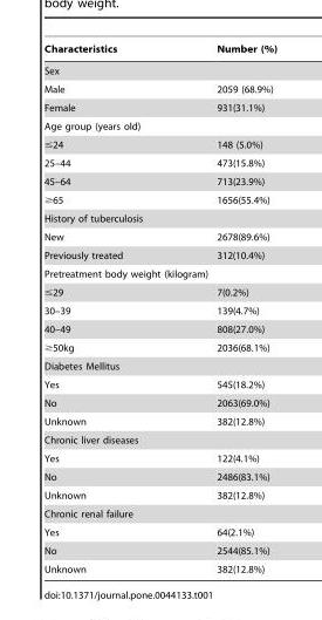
<table><thead><tr><td>Characteristics</td><td>Number (%)</td></tr></thead><tbody><tr><td colspan="2">Sex</td></tr><tr><td>Male</td><td>2059 (68.9%)</td></tr><tr><td>Female</td><td>931(31.1%)</td></tr><tr><td colspan="2">Age group (years old)</td></tr><tr><td>≤24</td><td>148 (5.0%)</td></tr><tr><td>25–44</td><td>473(15.8%)</td></tr><tr><td>45–64</td><td>713(23.9%)</td></tr><tr><td>≥65</td><td>1656(55.4%)</td></tr><tr><td colspan="2">History of tuberculosis</td></tr><tr><td>New</td><td>2678(89.6%)</td></tr><tr><td>Previously treated</td><td>312(10.4%)</td></tr><tr><td colspan="2">Pretreatment body weight (kilogram)</td></tr><tr><td>≤29</td><td>7(0.2%)</td></tr><tr><td>30–39</td><td>139(4.7%)</td></tr><tr><td>40–49</td><td>808(27.0%)</td></tr><tr><td>≥50kg</td><td>2036(68.1%)</td></tr><tr><td colspan="2">Diabetes Mellitus</td></tr><tr><td>Yes</td><td>545(18.2%)</td></tr><tr><td>No</td><td>2063(69.0%)</td></tr><tr><td>Unknown</td><td>382(12.8%)</td></tr><tr><td colspan="2">Chronic liver diseases</td></tr><tr><td>Yes</td><td>122(4.1%)</td></tr><tr><td>No</td><td>2486(83.1%)</td></tr><tr><td>Unknown</td><td>382(12.8%)</td></tr><tr><td colspan="2">Chronic renal failure</td></tr><tr><td>Yes</td><td>64(2.1%)</td></tr><tr><td>No</td><td>2544(85.1%)</td></tr><tr><td>Unknown</td><td>382(12.8%)</td></tr></tbody></table>